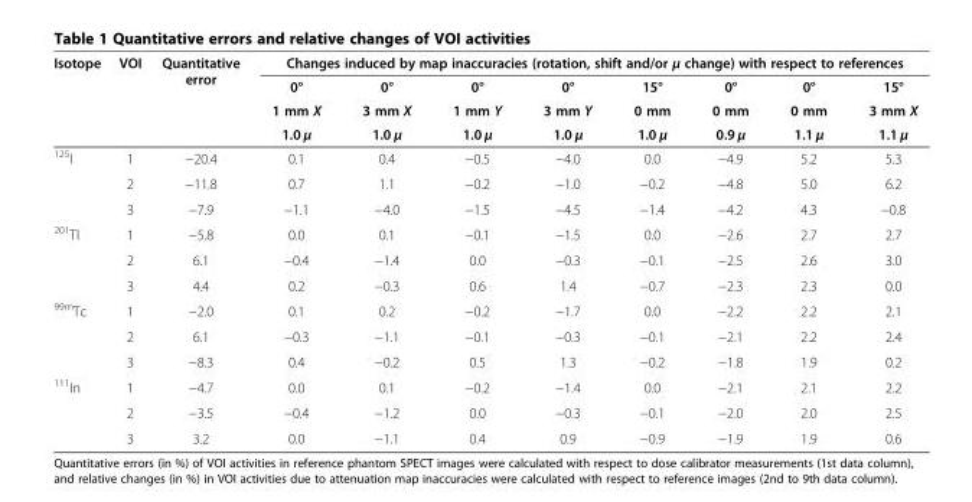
<table><thead><tr><td rowspan="4">Isotope</td><td rowspan="4">VOI</td><td rowspan="4">Quantitative error</td><td colspan="8">Changes induced by map inaccuracies (rotation, shift and/or μ change) with respect to references</td></tr><tr><td rowspan="3">0° 1 mm X 1.0 μ</td><td rowspan="3">0° 3 mm X 1.0 μ</td><td rowspan="3">0° 1 mm Y 1.0 μ</td><td rowspan="3">0° 3 mm Y 1.0 μ</td><td rowspan="3">15° 0 mm 1.0 μ</td><td rowspan="3">0° 0 mm 0.9 μ</td><td rowspan="3">0° 0 mm 1.1 μ</td><td rowspan="3">15° 3 mm X 1.1 μ</td></tr><tr></tr><tr></tr></thead><tbody><tr><td rowspan="3"><sup>125</sup>I</td><td>1</td><td>−20.4</td><td>0.1</td><td>0.4</td><td>−0.5</td><td>−4.0</td><td>0.0</td><td>−4.9</td><td>5.2</td><td>5.3</td></tr><tr><td>2</td><td>−11.8</td><td>0.7</td><td>1.1</td><td>−0.2</td><td>−1.0</td><td>−0.2</td><td>−4.8</td><td>5.0</td><td>6.2</td></tr><tr><td>3</td><td>−7.9</td><td>−1.1</td><td>−4.0</td><td>−1.5</td><td>−4.5</td><td>−1.4</td><td>−4.2</td><td>4.3</td><td>−0.8</td></tr><tr><td rowspan="3"><sup>201</sup>Tl</td><td>1</td><td>−5.8</td><td>0.0</td><td>0.1</td><td>−0.1</td><td>−1.5</td><td>0.0</td><td>−2.6</td><td>2.7</td><td>2.7</td></tr><tr><td>2</td><td>6.1</td><td>−0.4</td><td>−1.4</td><td>0.0</td><td>−0.3</td><td>−0.1</td><td>−2.5</td><td>2.6</td><td>3.0</td></tr><tr><td>3</td><td>4.4</td><td>0.2</td><td>−0.3</td><td>0.6</td><td>1.4</td><td>−0.7</td><td>−2.3</td><td>2.3</td><td>0.0</td></tr><tr><td rowspan="3"><sup>99m</sup>Tc</td><td>1</td><td>−2.0</td><td>0.1</td><td>0.2</td><td>−0.2</td><td>−1.7</td><td>0.0</td><td>−2.2</td><td>2.2</td><td>2.1</td></tr><tr><td>2</td><td>6.1</td><td>−0.3</td><td>−1.1</td><td>−0.1</td><td>−0.3</td><td>−0.1</td><td>−2.1</td><td>2.2</td><td>2.4</td></tr><tr><td>3</td><td>−8.3</td><td>0.4</td><td>−0.2</td><td>0.5</td><td>1.3</td><td>−0.2</td><td>−1.8</td><td>1.9</td><td>0.2</td></tr><tr><td rowspan="3"><sup>111</sup>In</td><td>1</td><td>−4.7</td><td>0.0</td><td>0.1</td><td>−0.2</td><td>−1.4</td><td>0.0</td><td>−2.1</td><td>2.1</td><td>2.2</td></tr><tr><td>2</td><td>−3.5</td><td>−0.4</td><td>−1.2</td><td>0.0</td><td>−0.3</td><td>−0.1</td><td>−2.0</td><td>2.0</td><td>2.5</td></tr><tr><td>3</td><td>3.2</td><td>0.0</td><td>−1.1</td><td>0.4</td><td>0.9</td><td>−0.9</td><td>−1.9</td><td>1.9</td><td>0.6</td></tr></tbody></table>